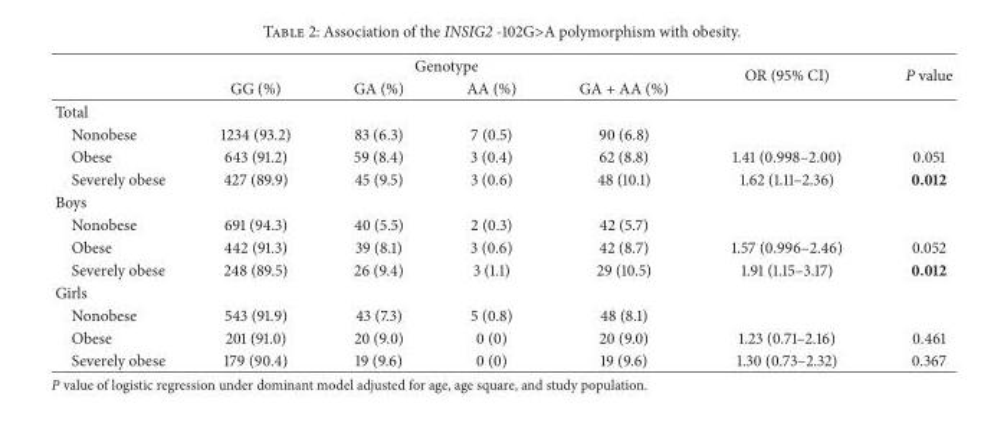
<table><thead><tr><td rowspan="2"></td><td colspan="4">Genotype</td><td rowspan="2">OR (95% CI)</td><td rowspan="2">P value</td></tr><tr><td>GG (%)</td><td>GA (%)</td><td>AA (%)</td><td>GA + AA (%)</td></tr></thead><tbody><tr><td colspan="7">Total</td></tr><tr><td>Nonobese</td><td>1234 (93.2)</td><td>83 (6.3)</td><td>7 (0.5)</td><td>90 (6.8)</td><td></td><td></td></tr><tr><td>Obese</td><td>643 (91.2)</td><td>59 (8.4)</td><td>3 (0.4)</td><td>62 (8.8)</td><td>1.41 (0.998–2.00)</td><td>0.051</td></tr><tr><td>Severely obese</td><td>427 (89.9)</td><td>45 (9.5)</td><td>3 (0.6)</td><td>48 (10.1)</td><td>1.62 (1.11–2.36)</td><td>0.012</td></tr><tr><td colspan="7">Boys</td></tr><tr><td>Nonobese</td><td>691 (94.3)</td><td>40 (5.5)</td><td>2 (0.3)</td><td>42 (5.7)</td><td></td><td></td></tr><tr><td>Obese</td><td>442 (91.3)</td><td>39 (8.1)</td><td>3 (0.6)</td><td>42 (8.7)</td><td>1.57 (0.996–2.46)</td><td>0.052</td></tr><tr><td>Severely obese</td><td>248 (89.5)</td><td>26 (9.4)</td><td>3 (1.1)</td><td>29 (10.5)</td><td>1.91 (1.15–3.17)</td><td>0.012</td></tr><tr><td colspan="7">Girls</td></tr><tr><td>Nonobese</td><td>543 (91.9)</td><td>43 (7.3)</td><td>5 (0.8)</td><td>48 (8.1)</td><td></td><td></td></tr><tr><td>Obese</td><td>201 (91.0)</td><td>20 (9.0)</td><td>0 (0)</td><td>20 (9.0)</td><td>1.23 (0.71–2.16)</td><td>0.461</td></tr><tr><td>Severely obese</td><td>179 (90.4)</td><td>19 (9.6)</td><td>0 (0)</td><td>19 (9.6)</td><td>1.30 (0.73–2.32)</td><td>0.367</td></tr></tbody></table>